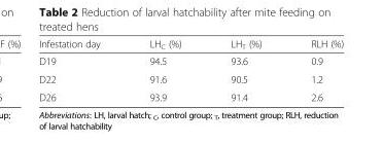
<table><thead><tr><td>Infestation day</td><td>LH<sub>C</sub> (%)</td><td>LH<sub>T</sub> (%)</td><td>RLH (%)</td></tr></thead><tbody><tr><td>D19</td><td>94.5</td><td>93.6</td><td>0.9</td></tr><tr><td>D22</td><td>91.6</td><td>90.5</td><td>1.2</td></tr><tr><td>D26</td><td>93.9</td><td>91.4</td><td>2.6</td></tr></tbody></table>